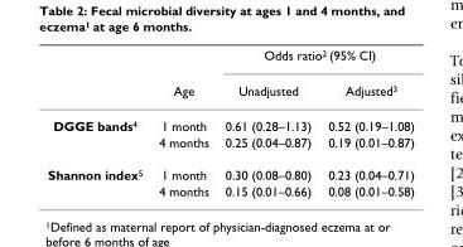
<table><thead><tr><td rowspan="2"></td><td rowspan="2">Age</td><td colspan="2">Odds ratio<sup>2</sup> (95% CI)</td></tr><tr><td>Unadjusted</td><td>Adjusted<sup>3</sup></td></tr></thead><tbody><tr><td rowspan="2">DGGE bands<sup>4</sup></td><td>1 month</td><td>0.61 (0.28–1.13)</td><td>0.52 (0.19–1.08)</td></tr><tr><td>4 months</td><td>0.25 (0.04–0.87)</td><td>0.19 (0.01–0.87)</td></tr><tr><td rowspan="2">Shannon index<sup>5</sup></td><td>1 month</td><td>0.30 (0.08–0.80)</td><td>0.23 (0.04–0.71)</td></tr><tr><td>4 months</td><td>0.15 (0.01–0.66)</td><td>0.08 (0.01–0.58)</td></tr></tbody></table>